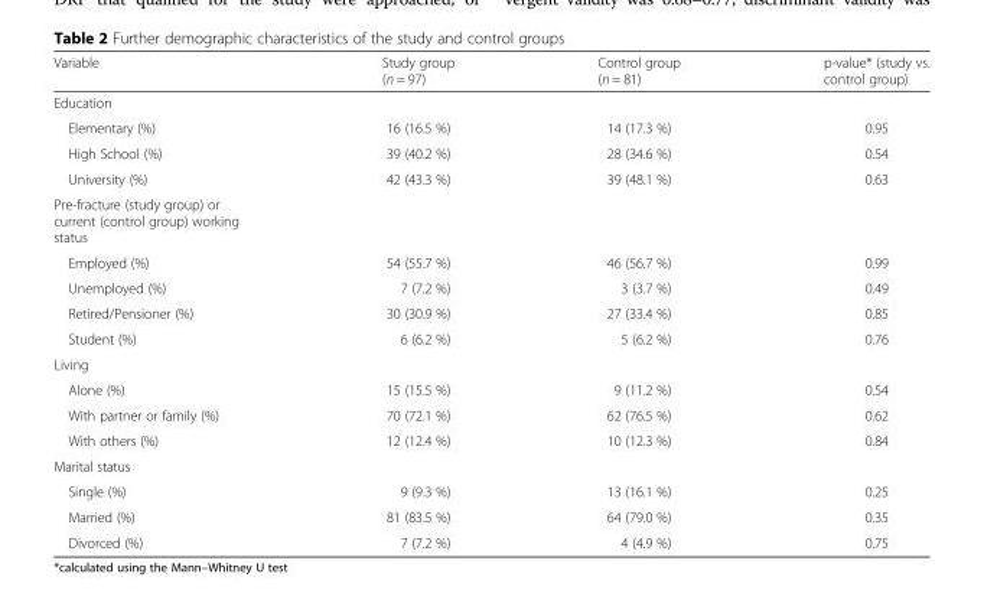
<table><thead><tr><td>Variable</td><td>Study group (n = 97)</td><td>Control group (n = 81)</td><td>p-value* (study vs. control group)</td></tr></thead><tbody><tr><td colspan="4">Education</td></tr><tr><td>Elementary (%)</td><td>16 (16.5 %)</td><td>14 (17.3 %)</td><td>0.95</td></tr><tr><td>High School (%)</td><td>39 (40.2 %)</td><td>28 (34.6 %)</td><td>0.54</td></tr><tr><td>University (%)</td><td>42 (43.3 %)</td><td>39 (48.1 %)</td><td>0.63</td></tr><tr><td colspan="4">Pre-fracture (study group) or current (control group) working status</td></tr><tr><td>Employed (%)</td><td>54 (55.7 %)</td><td>46 (56.7 %)</td><td>0.99</td></tr><tr><td>Unemployed (%)</td><td>7 (7.2 %)</td><td>3 (3.7 %)</td><td>0.49</td></tr><tr><td>Retired/Pensioner (%)</td><td>30 (30.9 %)</td><td>27 (33.4 %)</td><td>0.85</td></tr><tr><td>Student (%)</td><td>6 (6.2 %)</td><td>5 (6.2 %)</td><td>0.76</td></tr><tr><td colspan="4">Living</td></tr><tr><td>Alone (%)</td><td>15 (15.5 %)</td><td>9 (11.2 %)</td><td>0.54</td></tr><tr><td>With partner or family (%)</td><td>70 (72.1 %)</td><td>62 (76.5 %)</td><td>0.62</td></tr><tr><td>With others (%)</td><td>12 (12.4 %)</td><td>10 (12.3 %)</td><td>0.84</td></tr><tr><td colspan="4">Marital status</td></tr><tr><td>Single (%)</td><td>9 (9.3 %)</td><td>13 (16.1 %)</td><td>0.25</td></tr><tr><td>Married (%)</td><td>81 (83.5 %)</td><td>64 (79.0 %)</td><td>0.35</td></tr><tr><td>Divorced (%)</td><td>7 (7.2 %)</td><td>4 (4.9 %)</td><td>0.75</td></tr></tbody></table>